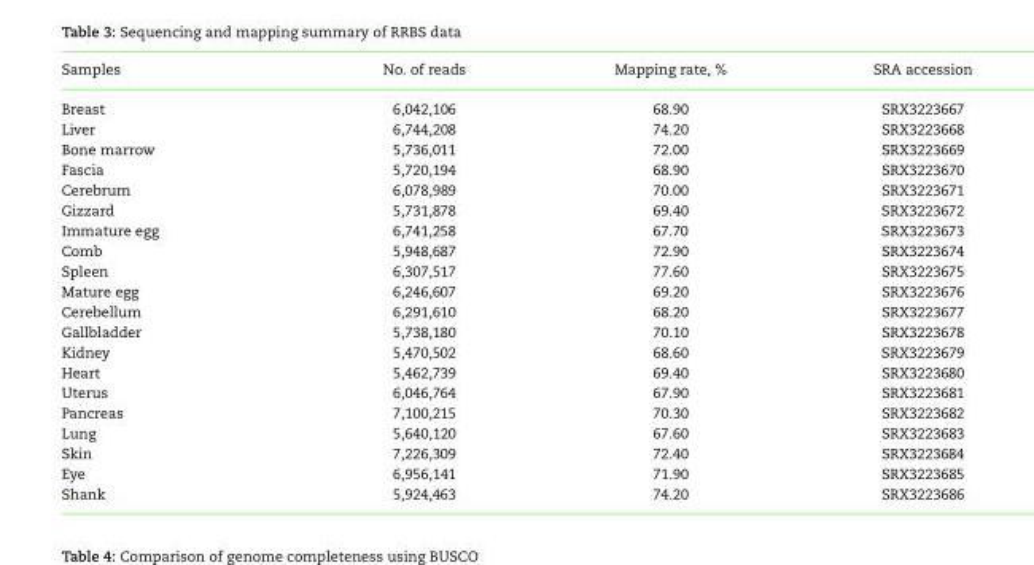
<table><thead><tr><td>Samples</td><td>No. of reads</td><td>Mapping rate, %</td><td>SRA accession</td></tr></thead><tbody><tr><td>Breast</td><td>6,042,106</td><td>68.90</td><td>SRX3223667</td></tr><tr><td>Liver</td><td>6,744,208</td><td>74.20</td><td>SRX3223668</td></tr><tr><td>Bone marrow</td><td>5,736,011</td><td>72.00</td><td>SRX3223669</td></tr><tr><td>Fascia</td><td>5,720,194</td><td>68.90</td><td>SRX3223670</td></tr><tr><td>Cerebrum</td><td>6,078,989</td><td>70.00</td><td>SRX3223671</td></tr><tr><td>Gizzard</td><td>5,731,878</td><td>69.40</td><td>SRX3223672</td></tr><tr><td>Immature egg</td><td>6,741,258</td><td>67.70</td><td>SRX3223673</td></tr><tr><td>Comb</td><td>5,948,687</td><td>72.90</td><td>SRX3223674</td></tr><tr><td>Spleen</td><td>6,307,517</td><td>77.60</td><td>SRX3223675</td></tr><tr><td>Mature egg</td><td>6,246,607</td><td>69.20</td><td>SRX3223676</td></tr><tr><td>Cerebellum</td><td>6,291,610</td><td>68.20</td><td>SRX3223677</td></tr><tr><td>Gallbladder</td><td>5,738,180</td><td>70.10</td><td>SRX3223678</td></tr><tr><td>Kidney</td><td>5,470,502</td><td>68.60</td><td>SRX3223679</td></tr><tr><td>Heart</td><td>5,462,739</td><td>69.40</td><td>SRX3223680</td></tr><tr><td>Uterus</td><td>6,046,764</td><td>67.90</td><td>SRX3223681</td></tr><tr><td>Pancreas</td><td>7,100,215</td><td>70.30</td><td>SRX3223682</td></tr><tr><td>Lung</td><td>5,640,120</td><td>67.60</td><td>SRX3223683</td></tr><tr><td>Skin</td><td>7,226,309</td><td>72.40</td><td>SRX3223684</td></tr><tr><td>Eye</td><td>6,956,141</td><td>71.90</td><td>SRX3223685</td></tr><tr><td>Shank</td><td>5,924,463</td><td>74.20</td><td>SRX3223686</td></tr></tbody></table>